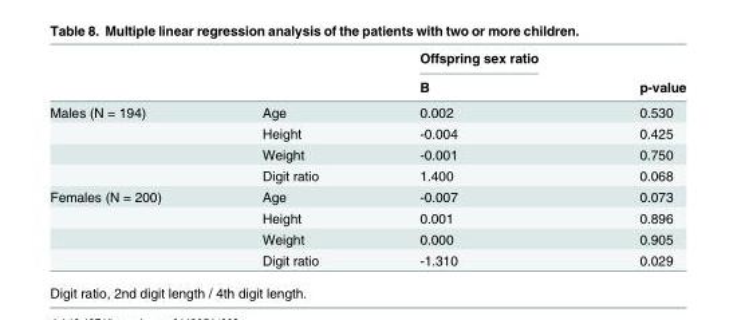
<table><thead><tr><td rowspan="2"></td><td rowspan="2"></td><td rowspan="2">Offspring sex ratio B</td><td rowspan="2">p-value</td></tr><tr></tr></thead><tbody><tr><td rowspan="4">Males (N = 194)</td><td>Age</td><td>0.002</td><td>0.530</td></tr><tr><td>Height</td><td>-0.004</td><td>0.425</td></tr><tr><td>Weight</td><td>-0.001</td><td>0.750</td></tr><tr><td>Digit ratio</td><td>1.400</td><td>0.068</td></tr><tr><td rowspan="4">Females (N = 200)</td><td>Age</td><td>-0.007</td><td>0.073</td></tr><tr><td>Height</td><td>0.001</td><td>0.896</td></tr><tr><td>Weight</td><td>0.000</td><td>0.905</td></tr><tr><td>Digit ratio</td><td>-1.310</td><td>0.029</td></tr></tbody></table>